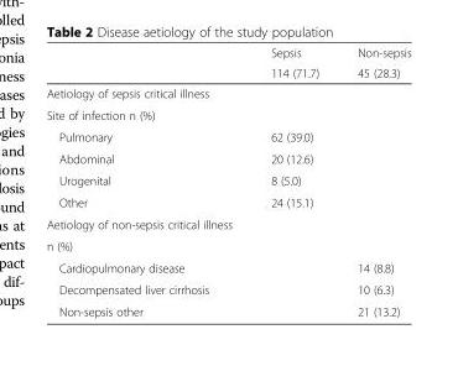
<table><thead><tr><td rowspan="2"></td><td rowspan="2">Sepsis 114 (71.7)</td><td rowspan="2">Non-sepsis 45 (28.3)</td></tr><tr></tr></thead><tbody><tr><td>Aetiology of sepsis critical illness</td><td rowspan="2"></td><td rowspan="2"></td></tr><tr><td>Site of infection n (%)</td></tr><tr><td>Pulmonary</td><td>62 (39.0)</td><td></td></tr><tr><td>Abdominal</td><td>20 (12.6)</td><td></td></tr><tr><td>Urogenital</td><td>8 (5.0)</td><td></td></tr><tr><td>Other</td><td>24 (15.1)</td><td></td></tr><tr><td>Aetiology of non-sepsis critical illness</td><td rowspan="2"></td><td rowspan="2"></td></tr><tr><td>n (%)</td></tr><tr><td>Cardiopulmonary disease</td><td></td><td>14 (8.8)</td></tr><tr><td>Decompensated liver cirrhosis</td><td></td><td>10 (6.3)</td></tr><tr><td>Non-sepsis other</td><td></td><td>21 (13.2)</td></tr></tbody></table>